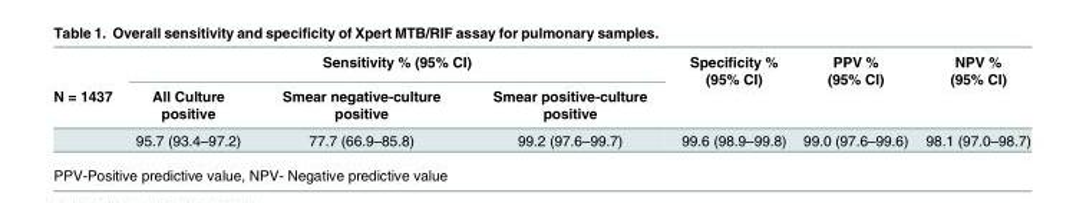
<table><thead><tr><td rowspan="2">N = 1437</td><td colspan="3">Sensitivity % (95% CI)</td><td rowspan="2">Specificity % (95% CI)</td><td rowspan="2">PPV % (95% CI)</td><td rowspan="2">NPV % (95% CI)</td></tr><tr><td>All Culture positive</td><td>Smear negative-culture positive</td><td>Smear positive-culture positive</td></tr></thead><tbody><tr><td></td><td>95.7 (93.4–97.2)</td><td>77.7 (66.9–85.8)</td><td>99.2 (97.6–99.7)</td><td>99.6 (98.9–99.8)</td><td>99.0 (97.6–99.6)</td><td>98.1 (97.0–98.7)</td></tr></tbody></table>